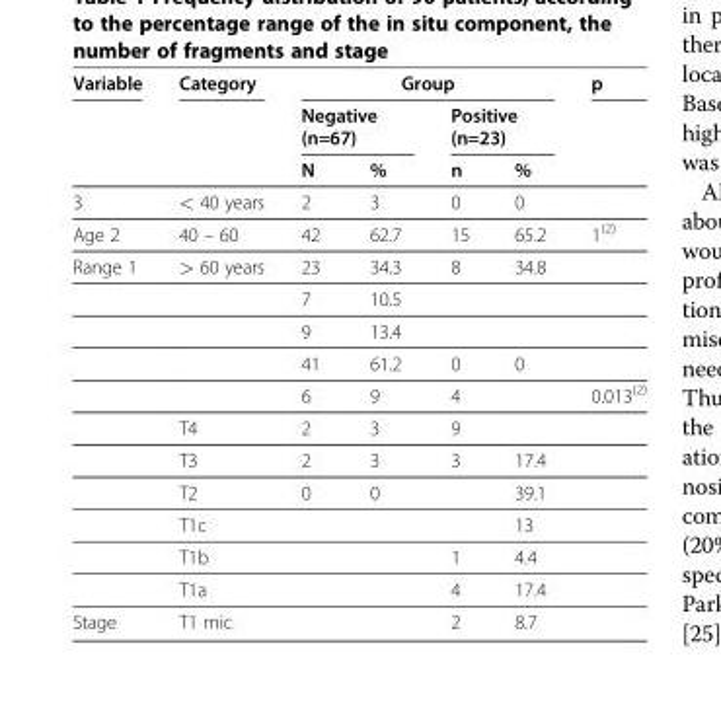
<table><thead><tr><td rowspan="3">Variable</td><td rowspan="3">Category</td><td colspan="4">Group</td><td rowspan="3">p</td></tr><tr><td colspan="2">Negative (n=67)</td><td colspan="2">Positive (n=23)</td></tr><tr><td>N</td><td>%</td><td>n</td><td>%</td></tr></thead><tbody><tr><td>3</td><td>&lt; 40 years</td><td>2</td><td>3</td><td>0</td><td>0</td><td></td></tr><tr><td>Age 2</td><td>40 – 60</td><td>42</td><td>62.7</td><td>15</td><td>65.2</td><td>1<sup>(2)</sup></td></tr><tr><td rowspan="11">Range 1</td><td>&gt; 60 years</td><td>23</td><td>34.3</td><td>8</td><td>34.8</td><td></td></tr><tr><td></td><td>7</td><td>10.5</td><td></td><td></td><td></td></tr><tr><td></td><td>9</td><td>13.4</td><td></td><td></td><td></td></tr><tr><td></td><td>41</td><td>61.2</td><td>0</td><td>0</td><td></td></tr><tr><td></td><td>6</td><td>9</td><td>4</td><td></td><td>0.013<sup>(2)</sup></td></tr><tr><td>T4</td><td>2</td><td>3</td><td>9</td><td></td><td></td></tr><tr><td>T3</td><td>2</td><td>3</td><td>3</td><td>17.4</td><td></td></tr><tr><td>T2</td><td>0</td><td>0</td><td></td><td>39.1</td><td></td></tr><tr><td>T1c</td><td></td><td></td><td></td><td>13</td><td></td></tr><tr><td>T1b</td><td></td><td></td><td>1</td><td>4.4</td><td></td></tr><tr><td>T1a</td><td></td><td></td><td>4</td><td>17.4</td><td></td></tr><tr><td>Stage</td><td>T1 mic</td><td></td><td></td><td>2</td><td>8.7</td><td></td></tr></tbody></table>